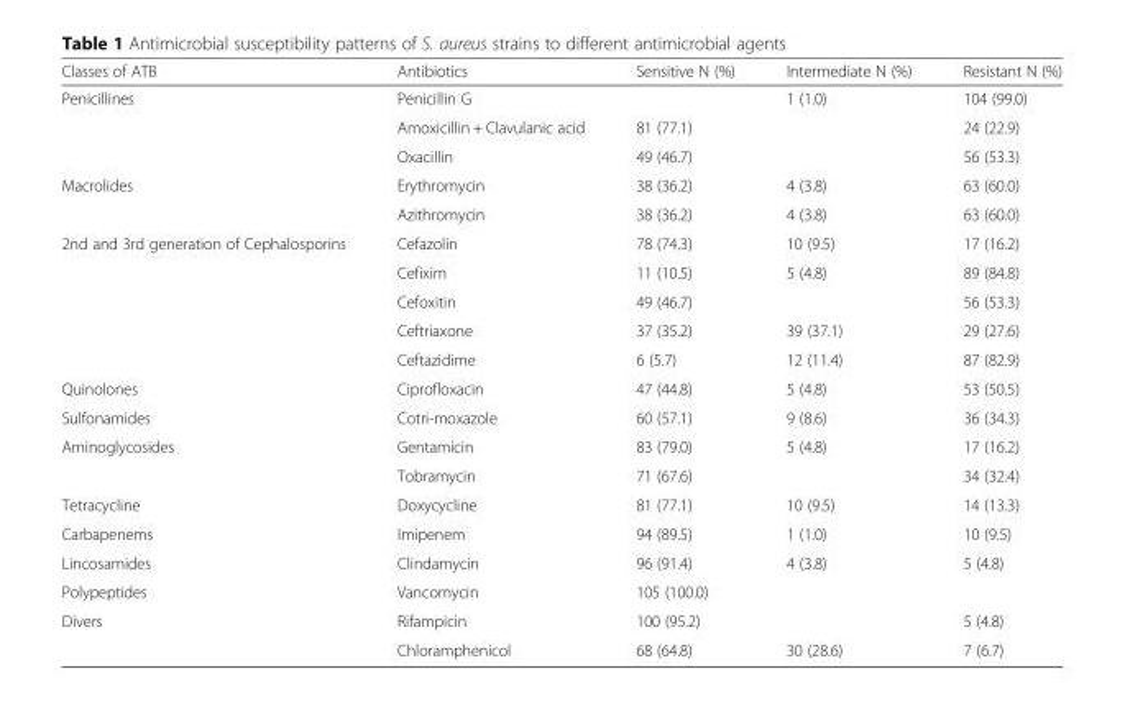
<table><thead><tr><td>Classes of ATB</td><td>Antibiotics</td><td>Sensitive N (%)</td><td>Intermediate N (%)</td><td>Resistant N (%)</td></tr></thead><tbody><tr><td rowspan="3">Penicillines</td><td>Penicillin G</td><td></td><td>1 (1.0)</td><td>104 (99.0)</td></tr><tr><td>Amoxicillin + Clavulanic acid</td><td>81 (77.1)</td><td></td><td>24 (22.9)</td></tr><tr><td>Oxacillin</td><td>49 (46.7)</td><td></td><td>56 (53.3)</td></tr><tr><td rowspan="2">Macrolides</td><td>Erythromycin</td><td>38 (36.2)</td><td>4 (3.8)</td><td>63 (60.0)</td></tr><tr><td>Azithromycin</td><td>38 (36.2)</td><td>4 (3.8)</td><td>63 (60.0)</td></tr><tr><td rowspan="5">2nd and 3rd generation of Cephalosporins</td><td>Cefazolin</td><td>78 (74.3)</td><td>10 (9.5)</td><td>17 (16.2)</td></tr><tr><td>Cefixim</td><td>11 (10.5)</td><td>5 (4.8)</td><td>89 (84.8)</td></tr><tr><td>Cefoxitin</td><td>49 (46.7)</td><td></td><td>56 (53.3)</td></tr><tr><td>Ceftriaxone</td><td>37 (35.2)</td><td>39 (37.1)</td><td>29 (27.6)</td></tr><tr><td>Ceftazidime</td><td>6 (5.7)</td><td>12 (11.4)</td><td>87 (82.9)</td></tr><tr><td>Quinolones</td><td>Ciprofloxacin</td><td>47 (44.8)</td><td>5 (4.8)</td><td>53 (50.5)</td></tr><tr><td>Sulfonamides</td><td>Cotri-moxazole</td><td>60 (57.1)</td><td>9 (8.6)</td><td>36 (34.3)</td></tr><tr><td rowspan="2">Aminoglycosides</td><td>Gentamicin</td><td>83 (79.0)</td><td>5 (4.8)</td><td>17 (16.2)</td></tr><tr><td>Tobramycin</td><td>71 (67.6)</td><td></td><td>34 (32.4)</td></tr><tr><td>Tetracycline</td><td>Doxycycline</td><td>81 (77.1)</td><td>10 (9.5)</td><td>14 (13.3)</td></tr><tr><td>Carbapenems</td><td>Imipenem</td><td>94 (89.5)</td><td>1 (1.0)</td><td>10 (9.5)</td></tr><tr><td>Lincosamides</td><td>Clindamycin</td><td>96 (91.4)</td><td>4 (3.8)</td><td>5 (4.8)</td></tr><tr><td>Polypeptides</td><td>Vancomycin</td><td>105 (100.0)</td><td></td><td></td></tr><tr><td rowspan="2">Divers</td><td>Rifampicin</td><td>100 (95.2)</td><td></td><td>5 (4.8)</td></tr><tr><td>Chloramphenicol</td><td>68 (64.8)</td><td>30 (28.6)</td><td>7 (6.7)</td></tr></tbody></table>